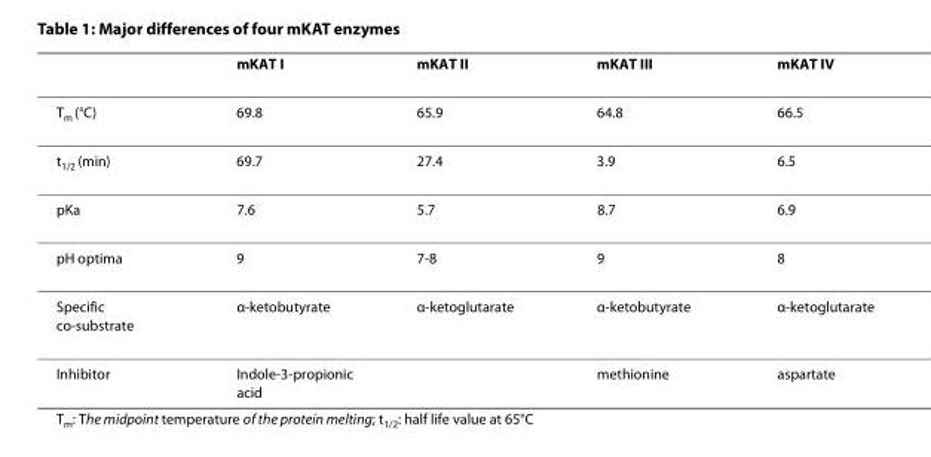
<table><thead><tr><td></td><td>mKAT I</td><td>mKAT II</td><td>mKAT III</td><td>mKAT IV</td></tr></thead><tbody><tr><td>T<sub>m</sub> (°C)</td><td>69.8</td><td>65.9</td><td>64.8</td><td>66.5</td></tr><tr><td>t<sub>1/2</sub> (min)</td><td>69.7</td><td>27.4</td><td>3.9</td><td>6.5</td></tr><tr><td>pKa</td><td>7.6</td><td>5.7</td><td>8.7</td><td>6.9</td></tr><tr><td>pH optima</td><td>9</td><td>7-8</td><td>9</td><td>8</td></tr><tr><td>Specific co-substrate</td><td>α-ketobutyrate</td><td>α-ketoglutarate</td><td>α-ketobutyrate</td><td>α-ketoglutarate</td></tr><tr><td>Inhibitor</td><td>Indole-3-propionic acid</td><td></td><td>methionine</td><td>aspartate</td></tr></tbody></table>